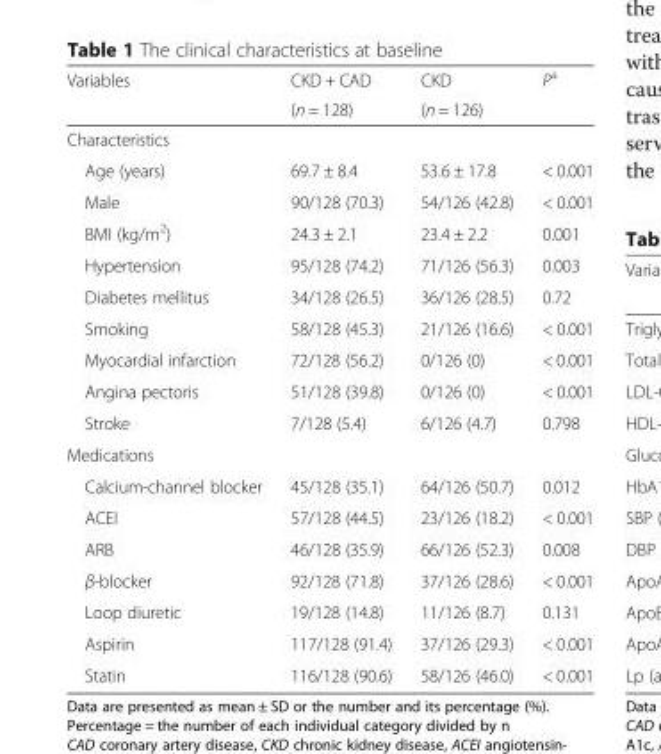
<table><thead><tr><td rowspan="2">Variables</td><td rowspan="2">CKD + CAD (n = 128)</td><td rowspan="2">CKD (n = 126)</td><td rowspan="2">P<sup>a</sup></td></tr><tr></tr></thead><tbody><tr><td colspan="4">Characteristics</td></tr><tr><td>Age (years)</td><td>69.7 ± 8.4</td><td>53.6 ± 17.8</td><td>&lt; 0.001</td></tr><tr><td>Male</td><td>90/128 (70.3)</td><td>54/126 (42.8)</td><td>&lt; 0.001</td></tr><tr><td>BMI (kg/m<sup>2</sup>)</td><td>24.3 ± 2.1</td><td>23.4 ± 2.2</td><td>0.001</td></tr><tr><td>Hypertension</td><td>95/128 (74.2)</td><td>71/126 (56.3)</td><td>0.003</td></tr><tr><td>Diabetes mellitus</td><td>34/128 (26.5)</td><td>36/126 (28.5)</td><td>0.72</td></tr><tr><td>Smoking</td><td>58/128 (45.3)</td><td>21/126 (16.6)</td><td>&lt; 0.001</td></tr><tr><td>Myocardial infarction</td><td>72/128 (56.2)</td><td>0/126 (0)</td><td>&lt; 0.001</td></tr><tr><td>Angina pectoris</td><td>51/128 (39.8)</td><td>0/126 (0)</td><td>&lt; 0.001</td></tr><tr><td>Stroke</td><td>7/128 (5.4)</td><td>6/126 (4.7)</td><td>0.798</td></tr><tr><td colspan="4">Medications</td></tr><tr><td>Calcium-channel blocker</td><td>45/128 (35.1)</td><td>64/126 (50.7)</td><td>0.012</td></tr><tr><td>ACEI</td><td>57/128 (44.5)</td><td>23/126 (18.2)</td><td>&lt; 0.001</td></tr><tr><td>ARB</td><td>46/128 (35.9)</td><td>66/126 (52.3)</td><td>0.008</td></tr><tr><td>β-blocker</td><td>92/128 (71.8)</td><td>37/126 (28.6)</td><td>&lt; 0.001</td></tr><tr><td>Loop diuretic</td><td>19/128 (14.8)</td><td>11/126 (8.7)</td><td>0.131</td></tr><tr><td>Aspirin</td><td>117/128 (91.4)</td><td>37/126 (29.3)</td><td>&lt; 0.001</td></tr><tr><td>Statin</td><td>116/128 (90.6)</td><td>58/126 (46.0)</td><td>&lt; 0.001</td></tr></tbody></table>